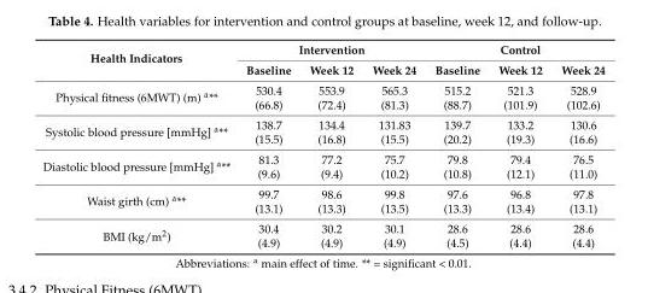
<table><thead><tr><td rowspan="2">Health Indicators</td><td colspan="3">Intervention</td><td colspan="3">Control</td></tr><tr><td>Baseline</td><td>Week 12</td><td>Week 24</td><td>Baseline</td><td>Week 12</td><td>Week 24</td></tr></thead><tbody><tr><td rowspan="2">Physical fitness (6MWT) (m) <sup>a</sup>**</td><td>530.4</td><td>553.9</td><td>565.3</td><td>515.2</td><td>521.3</td><td>528.9</td></tr><tr><td>(66.8)</td><td>(72.4)</td><td>(81.3)</td><td>(88.7)</td><td>(101.9)</td><td>(102.6)</td></tr><tr><td rowspan="2">Systolic blood pressure [mmHg] <sup>a</sup>**</td><td>138.7</td><td>134.4</td><td>131.83</td><td>139.7</td><td>133.2</td><td>130.6</td></tr><tr><td>(15.5)</td><td>(16.8)</td><td>(15.5)</td><td>(20.2)</td><td>(19.3)</td><td>(16.6)</td></tr><tr><td rowspan="2">Diastolic blood pressure [mmHg] <sup>a</sup>**</td><td>81.3</td><td>77.2</td><td>75.7</td><td>79.8</td><td>79.4</td><td>76.5</td></tr><tr><td>(9.6)</td><td>(9.4)</td><td>(10.2)</td><td>(10.8)</td><td>(12.1)</td><td>(11.0)</td></tr><tr><td rowspan="2">Waist girth (cm) <sup>a</sup>**</td><td>99.7</td><td>98.6</td><td>99.8</td><td>97.6</td><td>96.8</td><td>97.8</td></tr><tr><td>(13.1)</td><td>(13.3)</td><td>(13.5)</td><td>(13.3)</td><td>(13.4)</td><td>(13.1)</td></tr><tr><td rowspan="2">BMI (kg/m<sup>2</sup>)</td><td>30.4</td><td>30.2</td><td>30.1</td><td>28.6</td><td>28.6</td><td>28.6</td></tr><tr><td>(4.9)</td><td>(4.9)</td><td>(4.9)</td><td>(4.5)</td><td>(4.4)</td><td>(4.4)</td></tr></tbody></table>